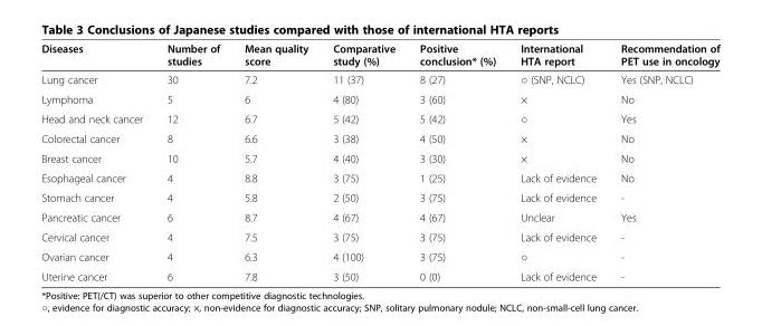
<table><thead><tr><td>Diseases</td><td>Number of studies</td><td>Mean quality score</td><td>Comparative study (%)</td><td>Positive conclusion* (%)</td><td>International HTA report</td><td>Recommendation of PET use in oncology</td></tr></thead><tbody><tr><td>Lung cancer</td><td>30</td><td>7.2</td><td>11 (37)</td><td>8 (27)</td><td>○ (SNP, NCLC)</td><td>Yes (SNP, NCLC)</td></tr><tr><td>Lymphoma</td><td>5</td><td>6</td><td>4 (80)</td><td>3 (60)</td><td>×</td><td>No</td></tr><tr><td>Head and neck cancer</td><td>12</td><td>6.7</td><td>5 (42)</td><td>5 (42)</td><td>○</td><td>Yes</td></tr><tr><td>Colorectal cancer</td><td>8</td><td>6.6</td><td>3 (38)</td><td>4 (50)</td><td>×</td><td>No</td></tr><tr><td>Breast cancer</td><td>10</td><td>5.7</td><td>4 (40)</td><td>3 (30)</td><td>×</td><td>No</td></tr><tr><td>Esophageal cancer</td><td>4</td><td>8.8</td><td>3 (75)</td><td>1 (25)</td><td>Lack of evidence</td><td>No</td></tr><tr><td>Stomach cancer</td><td>4</td><td>5.8</td><td>2 (50)</td><td>3 (75)</td><td>Lack of evidence</td><td>-</td></tr><tr><td>Pancreatic cancer</td><td>6</td><td>8.7</td><td>4 (67)</td><td>4 (67)</td><td>Unclear</td><td>Yes</td></tr><tr><td>Cervical cancer</td><td>4</td><td>7.5</td><td>3 (75)</td><td>3 (75)</td><td>Lack of evidence</td><td>-</td></tr><tr><td>Ovarian cancer</td><td>4</td><td>6.3</td><td>4 (100)</td><td>3 (75)</td><td>○</td><td>-</td></tr><tr><td>Uterine cancer</td><td>6</td><td>7.8</td><td>3 (50)</td><td>0 (0)</td><td>Lack of evidence</td><td>-</td></tr></tbody></table>